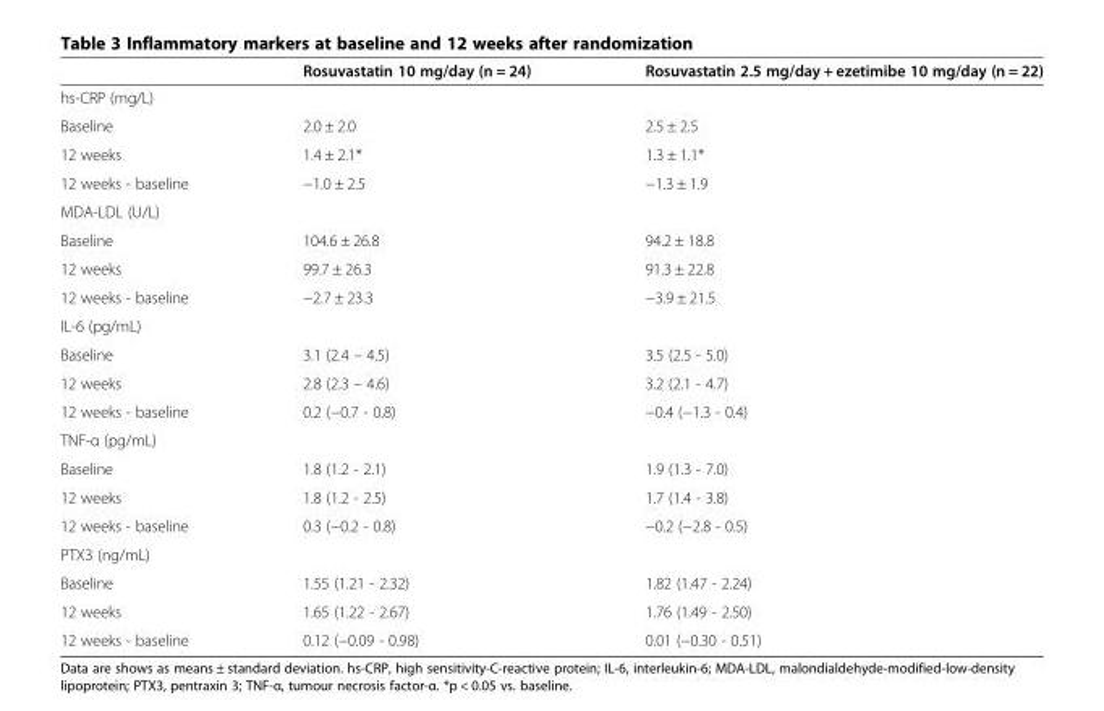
<table><thead><tr><td></td><td>Rosuvastatin 10 mg/day (n = 24)</td><td>Rosuvastatin 2.5 mg/day + ezetimibe 10 mg/day (n = 22)</td></tr></thead><tbody><tr><td colspan="3">hs-CRP (mg/L)</td></tr><tr><td>Baseline</td><td>2.0 ± 2.0</td><td>2.5 ± 2.5</td></tr><tr><td>12 weeks</td><td>1.4 ± 2.1*</td><td>1.3 ± 1.1*</td></tr><tr><td>12 weeks - baseline</td><td>−1.0 ± 2.5</td><td>−1.3 ± 1.9</td></tr><tr><td colspan="3">MDA-LDL (U/L)</td></tr><tr><td>Baseline</td><td>104.6 ± 26.8</td><td>94.2 ± 18.8</td></tr><tr><td>12 weeks</td><td>99.7 ± 26.3</td><td>91.3 ± 22.8</td></tr><tr><td>12 weeks - baseline</td><td>−2.7 ± 23.3</td><td>−3.9 ± 21.5</td></tr><tr><td colspan="3">IL-6 (pg/mL)</td></tr><tr><td>Baseline</td><td>3.1 (2.4 – 4.5)</td><td>3.5 (2.5 - 5.0)</td></tr><tr><td>12 weeks</td><td>2.8 (2.3 – 4.6)</td><td>3.2 (2.1 - 4.7)</td></tr><tr><td>12 weeks - baseline</td><td>0.2 (−0.7 - 0.8)</td><td>−0.4 (−1.3 - 0.4)</td></tr><tr><td colspan="3">TNF-α (pg/mL)</td></tr><tr><td>Baseline</td><td>1.8 (1.2 - 2.1)</td><td>1.9 (1.3 - 7.0)</td></tr><tr><td>12 weeks</td><td>1.8 (1.2 - 2.5)</td><td>1.7 (1.4 - 3.8)</td></tr><tr><td>12 weeks - baseline</td><td>0.3 (−0.2 - 0.8)</td><td>−0.2 (−2.8 - 0.5)</td></tr><tr><td colspan="3">PTX3 (ng/mL)</td></tr><tr><td>Baseline</td><td>1.55 (1.21 - 2.32)</td><td>1.82 (1.47 - 2.24)</td></tr><tr><td>12 weeks</td><td>1.65 (1.22 - 2.67)</td><td>1.76 (1.49 - 2.50)</td></tr><tr><td>12 weeks - baseline</td><td>0.12 (−0.09 - 0.98)</td><td>0.01 (−0.30 - 0.51)</td></tr></tbody></table>